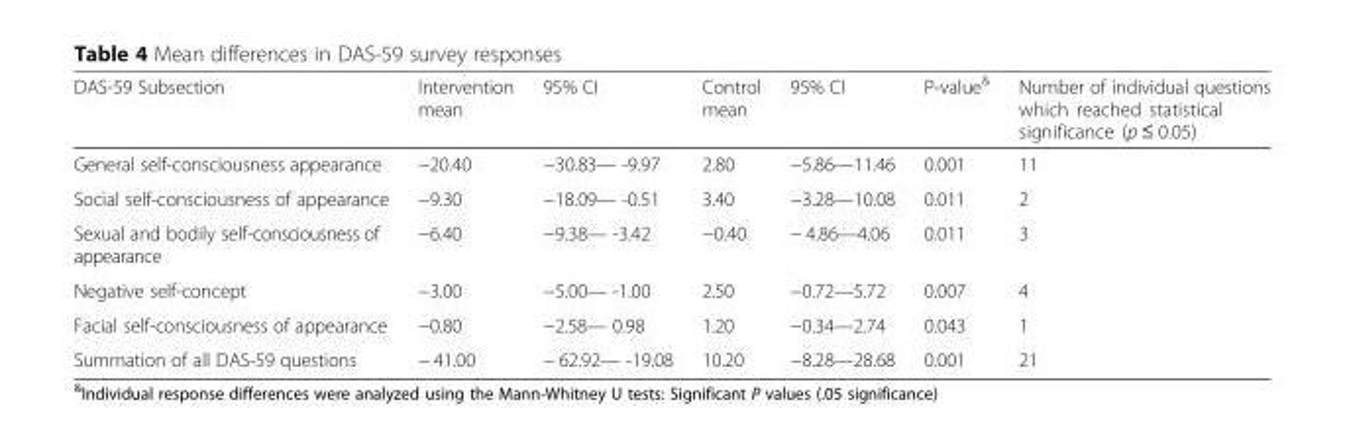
<table><thead><tr><td>DAS-59 Subsection</td><td>Intervention mean</td><td>95% CI</td><td>Control mean</td><td>95% CI</td><td>P-value<sup>&amp;</sup></td><td>Number of individual questions which reached statistical significance (p ≤ 0.05)</td></tr></thead><tbody><tr><td>General self-consciousness appearance</td><td>−20.40</td><td>−30.83— -9.97</td><td>2.80</td><td>−5.86—11.46</td><td>0.001</td><td>11</td></tr><tr><td>Social self-consciousness of appearance</td><td>−9.30</td><td>−18.09— -0.51</td><td>3.40</td><td>−3.28—10.08</td><td>0.011</td><td>2</td></tr><tr><td>Sexual and bodily self-consciousness of appearance</td><td>−6.40</td><td>−9.38— -3.42</td><td>−0.40</td><td>− 4.86—4.06</td><td>0.011</td><td>3</td></tr><tr><td>Negative self-concept</td><td>−3.00</td><td>−5.00— -1.00</td><td>2.50</td><td>−0.72—5.72</td><td>0.007</td><td>4</td></tr><tr><td>Facial self-consciousness of appearance</td><td>−0.80</td><td>−2.58— 0.98</td><td>1.20</td><td>−0.34—2.74</td><td>0.043</td><td>1</td></tr><tr><td>Summation of all DAS-59 questions</td><td>− 41.00</td><td>− 62.92— -19.08</td><td>10.20</td><td>−8.28—28.68</td><td>0.001</td><td>21</td></tr></tbody></table>